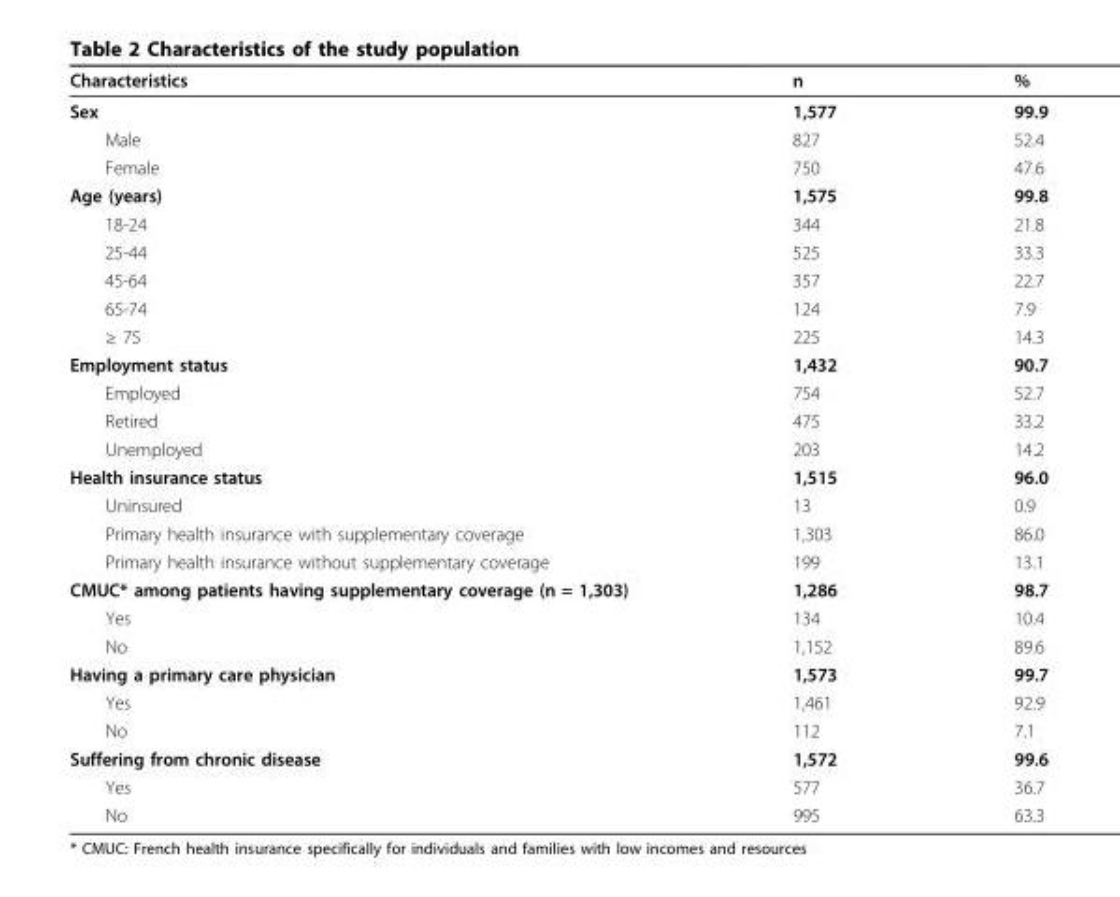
<table><thead><tr><td>Characteristics</td><td>n</td><td>%</td></tr></thead><tbody><tr><td>Sex</td><td>1,577</td><td>99.9</td></tr><tr><td>Male</td><td>827</td><td>52.4</td></tr><tr><td>Female</td><td>750</td><td>47.6</td></tr><tr><td>Age (years)</td><td>1,575</td><td>99.8</td></tr><tr><td>18-24</td><td>344</td><td>21.8</td></tr><tr><td>25-44</td><td>525</td><td>33.3</td></tr><tr><td>45-64</td><td>357</td><td>22.7</td></tr><tr><td>65-74</td><td>124</td><td>7.9</td></tr><tr><td>≥ 75</td><td>225</td><td>14.3</td></tr><tr><td>Employment status</td><td>1,432</td><td>90.7</td></tr><tr><td>Employed</td><td>754</td><td>52.7</td></tr><tr><td>Retired</td><td>475</td><td>33.2</td></tr><tr><td>Unemployed</td><td>203</td><td>14.2</td></tr><tr><td>Health insurance status</td><td>1,515</td><td>96.0</td></tr><tr><td>Uninsured</td><td>13</td><td>0.9</td></tr><tr><td>Primary health insurance with supplementary coverage</td><td>1,303</td><td>86.0</td></tr><tr><td>Primary health insurance without supplementary coverage</td><td>199</td><td>13.1</td></tr><tr><td>CMUC* among patients having supplementary coverage (n = 1,303)</td><td>1,286</td><td>98.7</td></tr><tr><td>Yes</td><td>134</td><td>10.4</td></tr><tr><td>No</td><td>1,152</td><td>89.6</td></tr><tr><td>Having a primary care physician</td><td>1,573</td><td>99.7</td></tr><tr><td>Yes</td><td>1,461</td><td>92.9</td></tr><tr><td>No</td><td>112</td><td>7.1</td></tr><tr><td>Suffering from chronic disease</td><td>1,572</td><td>99.6</td></tr><tr><td>Yes</td><td>577</td><td>36.7</td></tr><tr><td>No</td><td>995</td><td>63.3</td></tr></tbody></table>